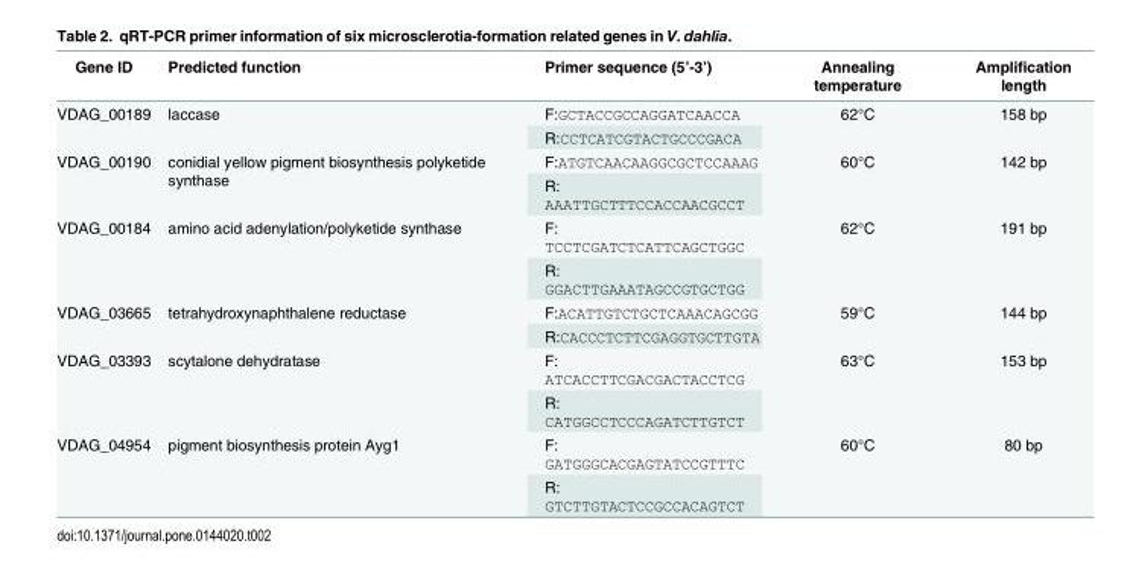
<table><thead><tr><td>Gene ID</td><td>Predicted function</td><td>Primer sequence (5’-3’)</td><td>Annealing temperature</td><td>Amplification length</td></tr></thead><tbody><tr><td rowspan="2">VDAG_00189</td><td rowspan="2">laccase</td><td>F:GCTACCGCCAGGATCAACCA</td><td rowspan="2">62°C</td><td rowspan="2">158 bp</td></tr><tr><td>R:CCTCATCGTACTGCCCGACA</td></tr><tr><td rowspan="2">VDAG_00190</td><td rowspan="2">conidial yellow pigment biosynthesis polyketide synthase</td><td>F:ATGTCAACAAGGCGCTCCAAAG</td><td rowspan="2">60°C</td><td rowspan="2">142 bp</td></tr><tr><td>R: AAATTGCTTTCCACCAACGCCT</td></tr><tr><td rowspan="2">VDAG_00184</td><td rowspan="2">amino acid adenylation/polyketide synthase</td><td>F: TCCTCGATCTCATTCAGCTGGC</td><td rowspan="2">62°C</td><td rowspan="2">191 bp</td></tr><tr><td>R: GGACTTGAAATAGCCGTGCTGG</td></tr><tr><td rowspan="2">VDAG_03665</td><td rowspan="2">tetrahydroxynaphthalene reductase</td><td>F:ACATTGTCTGCTCAAACAGCGG</td><td rowspan="2">59°C</td><td rowspan="2">144 bp</td></tr><tr><td>R:CACCCTCTTCGAGGTGCTTGTA</td></tr><tr><td rowspan="2">VDAG_03393</td><td rowspan="2">scytalone dehydratase</td><td>F: ATCACCTTCGACGACTACCTCG</td><td rowspan="2">63°C</td><td rowspan="2">153 bp</td></tr><tr><td>R: CATGGCCTCCCAGATCTTGTCT</td></tr><tr><td rowspan="2">VDAG_04954</td><td rowspan="2">pigment biosynthesis protein Ayg1</td><td>F: GATGGGCACGAGTATCCGTTTC</td><td rowspan="2">60°C</td><td rowspan="2">80 bp</td></tr><tr><td>R: GTCTTGTACTCCGCCACAGTCT</td></tr></tbody></table>